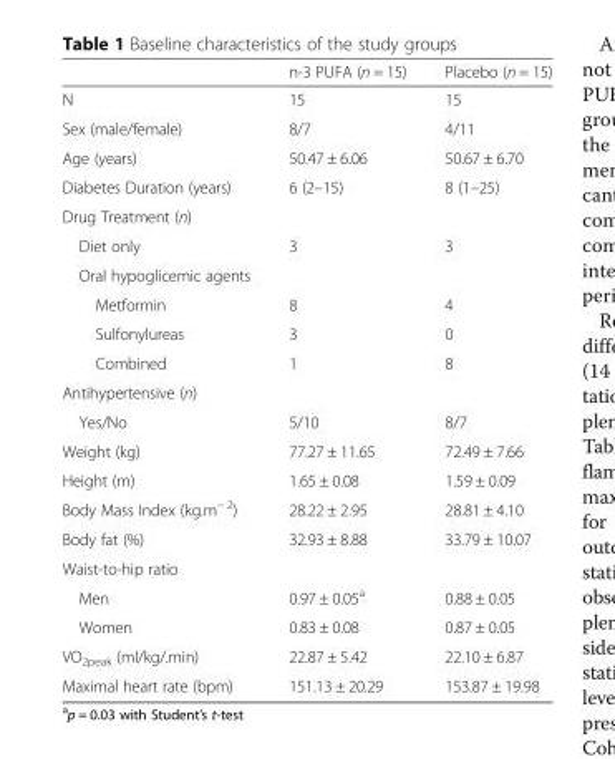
<table><thead><tr><td></td><td>n-3 PUFA (n = 15)</td><td>Placebo (n = 15)</td></tr></thead><tbody><tr><td>N</td><td>15</td><td>15</td></tr><tr><td>Sex (male/female)</td><td>8/7</td><td>4/11</td></tr><tr><td>Age (years)</td><td>50.47 ± 6.06</td><td>50.67 ± 6.70</td></tr><tr><td>Diabetes Duration (years)</td><td>6 (2–15)</td><td>8 (1–25)</td></tr><tr><td colspan="3">Drug Treatment (n)</td></tr><tr><td>Diet only</td><td>3</td><td>3</td></tr><tr><td colspan="3">Oral hypoglicemic agents</td></tr><tr><td>Metformin</td><td>8</td><td>4</td></tr><tr><td>Sulfonylureas</td><td>3</td><td>0</td></tr><tr><td>Combined</td><td>1</td><td>8</td></tr><tr><td colspan="3">Antihypertensive (n)</td></tr><tr><td>Yes/No</td><td>5/10</td><td>8/7</td></tr><tr><td>Weight (kg)</td><td>77.27 ± 11.65</td><td>72.49 ± 7.66</td></tr><tr><td>Height (m)</td><td>1.65 ± 0.08</td><td>1.59 ± 0.09</td></tr><tr><td>Body Mass Index (kg.m<sup>− 2</sup>)</td><td>28.22 ± 2.95</td><td>28.81 ± 4.10</td></tr><tr><td>Body fat (%)</td><td>32.93 ± 8.88</td><td>33.79 ± 10.07</td></tr><tr><td colspan="3">Waist-to-hip ratio</td></tr><tr><td>Men</td><td>0.97 ± 0.05<sup>a</sup></td><td>0.88 ± 0.05</td></tr><tr><td>Women</td><td>0.83 ± 0.08</td><td>0.87 ± 0.05</td></tr><tr><td>VO<sub>2peak</sub> (ml/kg/.min)</td><td>22.87 ± 5.42</td><td>22.10 ± 6.87</td></tr><tr><td>Maximal heart rate (bpm)</td><td>151.13 ± 20.29</td><td>153.87 ± 19.98</td></tr></tbody></table>